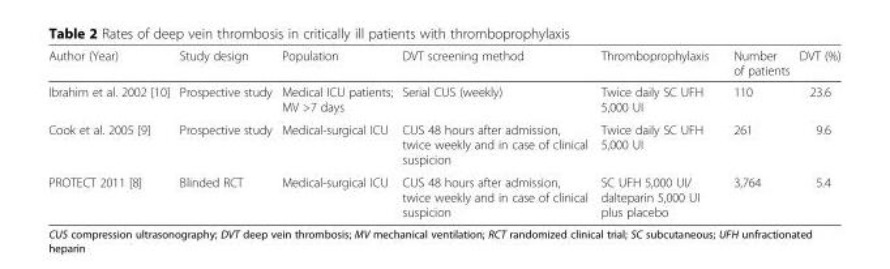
<table><thead><tr><td>Author (Year)</td><td>Study design</td><td>Population</td><td>DVT screening method</td><td>Thromboprophylaxis</td><td>Number of patients</td><td>DVT (%)</td></tr></thead><tbody><tr><td>Ibrahim et al. 2002 [10]</td><td>Prospective study</td><td>Medical ICU patients; MV &gt;7 days</td><td>Serial CUS (weekly)</td><td>Twice daily SC UFH 5,000 UI</td><td>110</td><td>23.6</td></tr><tr><td>Cook et al. 2005 [9]</td><td>Prospective study</td><td>Medical-surgical ICU</td><td>CUS 48 hours after admission, twice weekly and in case of clinical suspicion</td><td>Twice daily SC UFH 5,000 UI</td><td>261</td><td>9.6</td></tr><tr><td>PROTECT 2011 [8]</td><td>Blinded RCT</td><td>Medical-surgical ICU</td><td>CUS 48 hours after admission, twice weekly and in case of clinical suspicion</td><td>SC UFH 5,000 UI/ dalteparin 5,000 UI plus placebo</td><td>3,764</td><td>5.4</td></tr></tbody></table>